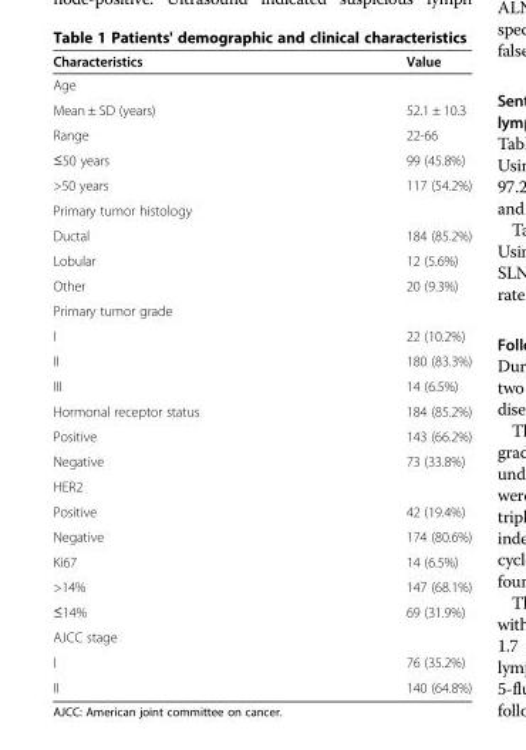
<table><thead><tr><td>Characteristics</td><td>Value</td></tr></thead><tbody><tr><td colspan="2">Age</td></tr><tr><td>Mean ± SD (years)</td><td>52.1 ± 10.3</td></tr><tr><td>Range</td><td>22-66</td></tr><tr><td>≤50 years</td><td>99 (45.8%)</td></tr><tr><td>&gt;50 years</td><td>117 (54.2%)</td></tr><tr><td colspan="2">Primary tumor histology</td></tr><tr><td>Ductal</td><td>184 (85.2%)</td></tr><tr><td>Lobular</td><td>12 (5.6%)</td></tr><tr><td>Other</td><td>20 (9.3%)</td></tr><tr><td colspan="2">Primary tumor grade</td></tr><tr><td>I</td><td>22 (10.2%)</td></tr><tr><td>II</td><td>180 (83.3%)</td></tr><tr><td>III</td><td>14 (6.5%)</td></tr><tr><td>Hormonal receptor status</td><td>184 (85.2%)</td></tr><tr><td>Positive</td><td>143 (66.2%)</td></tr><tr><td>Negative</td><td>73 (33.8%)</td></tr><tr><td colspan="2">HER2</td></tr><tr><td>Positive</td><td>42 (19.4%)</td></tr><tr><td>Negative</td><td>174 (80.6%)</td></tr><tr><td>Ki67</td><td>14 (6.5%)</td></tr><tr><td>&gt;14%</td><td>147 (68.1%)</td></tr><tr><td>≤14%</td><td>69 (31.9%)</td></tr><tr><td colspan="2">AJCC stage</td></tr><tr><td>I</td><td>76 (35.2%)</td></tr><tr><td>II</td><td>140 (64.8%)</td></tr></tbody></table>